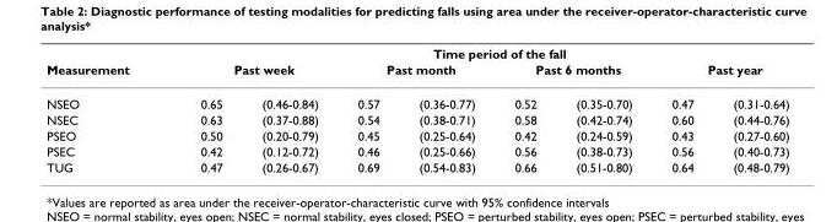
<table><thead><tr><td rowspan="3">Measurement NSEO</td><td colspan="8">Time period of the fall</td></tr><tr><td colspan="2">Past week</td><td colspan="2">Past month</td><td colspan="2">Past 6 months</td><td colspan="2">Past year</td></tr><tr><td>0.65</td><td>(0.46-0.84)</td><td>0.57</td><td>(0.36-0.77)</td><td>0.52</td><td>(0.35-0.70)</td><td>0.47</td><td>(0.31-0.64)</td></tr></thead><tbody><tr><td>NSEC</td><td>0.63</td><td>(0.37-0.88)</td><td>0.54</td><td>(0.38-0.71)</td><td>0.58</td><td>(0.42-0.74)</td><td>0.60</td><td>(0.44-0.76)</td></tr><tr><td>PSEO</td><td>0.50</td><td>(0.20-0.79)</td><td>0.45</td><td>(0.25-0.64)</td><td>0.42</td><td>(0.24-0.59)</td><td>0.43</td><td>(0.27-0.60)</td></tr><tr><td>PSEC</td><td>0.42</td><td>(0.12-0.72)</td><td>0.46</td><td>(0.25-0.66)</td><td>0.56</td><td>(0.38-0.73)</td><td>0.56</td><td>(0.40-0.73)</td></tr><tr><td>TUG</td><td>0.47</td><td>(0.26-0.67)</td><td>0.69</td><td>(0.54-0.83)</td><td>0.66</td><td>(0.51-0.80)</td><td>0.64</td><td>(0.48-0.79)</td></tr></tbody></table>